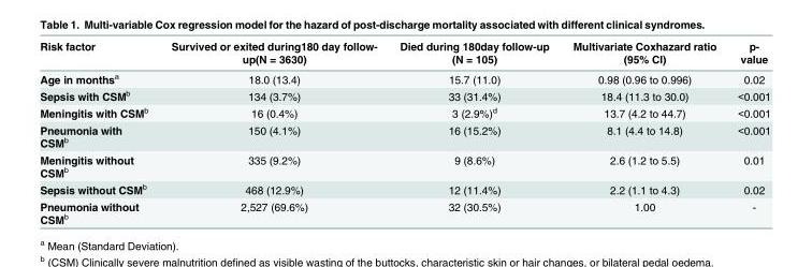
<table><thead><tr><td>Risk factor</td><td>Survived or exited during180 day follow- up(N = 3630)</td><td>Died during 180day follow-up (N = 105)</td><td>Multivariate Coxhazard ratio (95% CI)</td><td>p- value</td></tr></thead><tbody><tr><td>Age in months<sup>a</sup></td><td>18.0 (13.4)</td><td>15.7 (11.0)</td><td>0.98 (0.96 to 0.996)</td><td>0.02</td></tr><tr><td>Sepsis with CSM<sup>b</sup></td><td>134 (3.7%)</td><td>33 (31.4%)</td><td>18.4 (11.3 to 30.0)</td><td>&lt;0.001</td></tr><tr><td>Meningitis with CSM<sup>b</sup></td><td>16 (0.4%)</td><td>3 (2.9%)<sup>d</sup></td><td>13.7 (4.2 to 44.7)</td><td>&lt;0.001</td></tr><tr><td>Pneumonia with CSM<sup>b</sup></td><td>150 (4.1%)</td><td>16 (15.2%)</td><td>8.1 (4.4 to 14.8)</td><td>&lt;0.001</td></tr><tr><td>Meningitis without CSM<sup>b</sup></td><td>335 (9.2%)</td><td>9 (8.6%)</td><td>2.6 (1.2 to 5.5)</td><td>0.01</td></tr><tr><td>Sepsis without CSM<sup>b</sup></td><td>468 (12.9%)</td><td>12 (11.4%)</td><td>2.2 (1.1 to 4.3)</td><td>0.02</td></tr><tr><td>Pneumonia without CSM<sup>b</sup></td><td>2,527 (69.6%)</td><td>32 (30.5%)</td><td>1.00</td><td>-</td></tr></tbody></table>